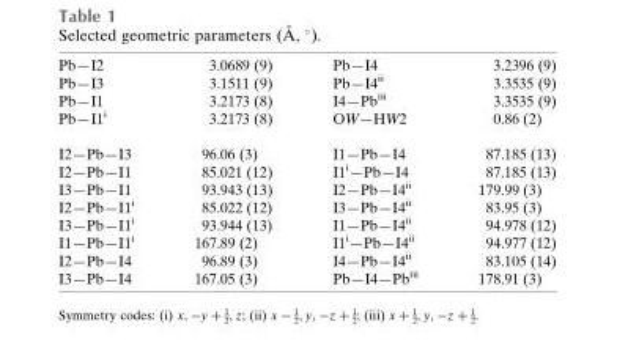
<table><tbody><tr><td>Pb—I2</td><td>3.0689 (9)</td><td>Pb—I4</td><td>3.2396 (9)</td></tr><tr><td>Pb—I3</td><td>3.1511 (9)</td><td>Pb—I4<sup>ii</sup></td><td>3.3535 (9)</td></tr><tr><td>Pb—I1</td><td>3.2173 (8)</td><td>I4—Pb<sup>iii</sup></td><td>3.3535 (9)</td></tr><tr><td>Pb—I1<sup>i</sup></td><td>3.2173 (8)</td><td>OW—HW2</td><td>0.86 (2)</td></tr><tr><td>I2—Pb—I3</td><td>96.06 (3)</td><td>I1—Pb—I4</td><td>87.185 (13)</td></tr><tr><td>I2—Pb—I1</td><td>85.021 (12)</td><td>I1<sup>i</sup>—Pb—I4</td><td>87.185 (13)</td></tr><tr><td>I3—Pb—I1</td><td>93.943 (13)</td><td>I2—Pb—I4<sup>ii</sup></td><td>179.99 (3)</td></tr><tr><td>I2—Pb—I1<sup>i</sup></td><td>85.022 (12)</td><td>I3—Pb—I4<sup>ii</sup></td><td>83.95 (3)</td></tr><tr><td>I3—Pb—I1<sup>i</sup></td><td>93.944 (13)</td><td>I1—Pb—I4<sup>ii</sup></td><td>94.978 (12)</td></tr><tr><td>I1—Pb—I1<sup>i</sup></td><td>167.89 (2)</td><td>I1<sup>i</sup>—Pb—I4<sup>ii</sup></td><td>94.977 (12)</td></tr><tr><td>I2—Pb—I4</td><td>96.89 (3)</td><td>I4—Pb—I4<sup>ii</sup></td><td>83.105 (14)</td></tr><tr><td>I3—Pb—I4</td><td>167.05 (3)</td><td>Pb—I4—Pb<sup>iii</sup></td><td>178.91 (3)</td></tr></tbody></table>